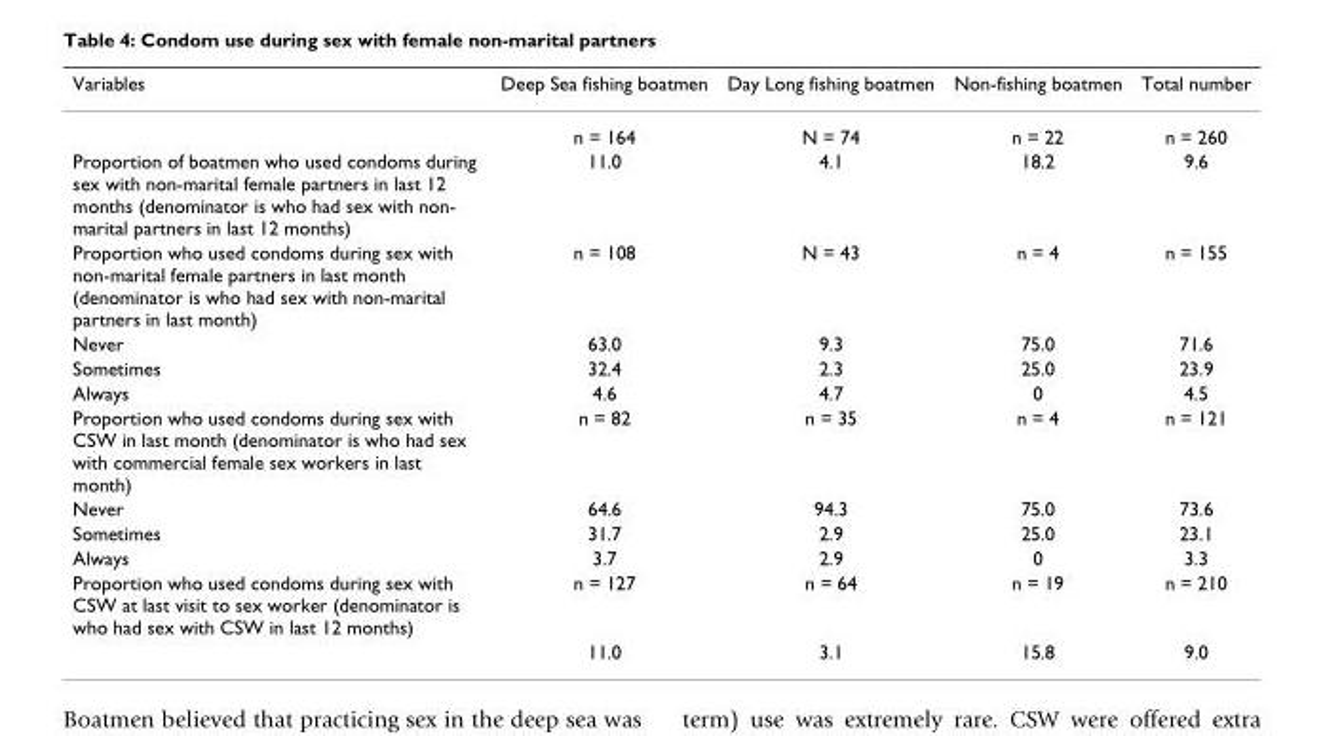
<table><thead><tr><td>Variables</td><td>Deep Sea fishing boatmen</td><td>Day Long fishing boatmen</td><td>Non-fishing boatmen</td><td>Total number</td></tr></thead><tbody><tr><td></td><td>n = 164</td><td>N = 74</td><td>n = 22</td><td>n = 260</td></tr><tr><td>Proportion of boatmen who used condoms during sex with non-marital female partners in last 12 months (denominator is who had sex with non- marital partners in last 12 months)</td><td>11.0</td><td>4.1</td><td>18.2</td><td>9.6</td></tr><tr><td>Proportion who used condoms during sex with non-marital female partners in last month (denominator is who had sex with non-marital partners in last month)</td><td>n = 108</td><td>N = 43</td><td>n = 4</td><td>n = 155</td></tr><tr><td>Never</td><td>63.0</td><td>9.3</td><td>75.0</td><td>71.6</td></tr><tr><td>Sometimes</td><td>32.4</td><td>2.3</td><td>25.0</td><td>23.9</td></tr><tr><td>Always</td><td>4.6</td><td>4.7</td><td>0</td><td>4.5</td></tr><tr><td>Proportion who used condoms during sex with CSW in last month (denominator is who had sex with commercial female sex workers in last month)</td><td>n = 82</td><td>n = 35</td><td>n = 4</td><td>n = 121</td></tr><tr><td>Never</td><td>64.6</td><td>94.3</td><td>75.0</td><td>73.6</td></tr><tr><td>Sometimes</td><td>31.7</td><td>2.9</td><td>25.0</td><td>23.1</td></tr><tr><td>Always</td><td>3.7</td><td>2.9</td><td>0</td><td>3.3</td></tr><tr><td rowspan="2">Proportion who used condoms during sex with CSW at last visit to sex worker (denominator is who had sex with CSW in last 12 months)</td><td>n = 127</td><td>n = 64</td><td>n = 19</td><td>n = 210</td></tr><tr><td>11.0</td><td>3.1</td><td>15.8</td><td>9.0</td></tr></tbody></table>